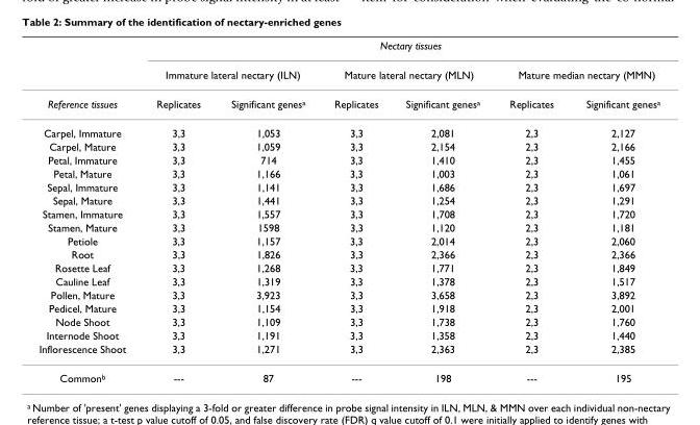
<table><thead><tr><td rowspan="3">Reference tissues</td><td colspan="6">Nectary tissues</td></tr><tr><td colspan="2">Immature lateral nectary (ILN)</td><td colspan="2">Mature lateral nectary (MLN)</td><td colspan="2">Mature median nectary (MMN)</td></tr><tr><td>Replicates</td><td>Significant genes<sup>a</sup></td><td>Replicates</td><td>Significant genes<sup>a</sup></td><td>Replicates</td><td>Significant genes<sup>a</sup></td></tr></thead><tbody><tr><td>Carpel, Immature</td><td>3,3</td><td>1,053</td><td>3,3</td><td>2,081</td><td>2,3</td><td>2,127</td></tr><tr><td>Carpel, Mature</td><td>3,3</td><td>1,059</td><td>3,3</td><td>2,154</td><td>2,3</td><td>2,166</td></tr><tr><td>Petal, Immature</td><td>3,3</td><td>714</td><td>3,3</td><td>1,410</td><td>2,3</td><td>1,455</td></tr><tr><td>Petal, Mature</td><td>3,3</td><td>1,166</td><td>3,3</td><td>1,003</td><td>2,3</td><td>1,061</td></tr><tr><td>Sepal, Immature</td><td>3,3</td><td>1,141</td><td>3,3</td><td>1,686</td><td>2,3</td><td>1,697</td></tr><tr><td>Sepal, Mature</td><td>3,3</td><td>1,441</td><td>3,3</td><td>1,254</td><td>2,3</td><td>1,291</td></tr><tr><td>Stamen, Immature</td><td>3,3</td><td>1,557</td><td>3,3</td><td>1,708</td><td>2,3</td><td>1,720</td></tr><tr><td>Stamen, Mature</td><td>3,3</td><td>1598</td><td>3,3</td><td>1,120</td><td>2,3</td><td>1,181</td></tr><tr><td>Petiole</td><td>3,3</td><td>1,157</td><td>3,3</td><td>2,014</td><td>2,3</td><td>2,060</td></tr><tr><td>Root</td><td>3,3</td><td>1,826</td><td>3,3</td><td>2,366</td><td>2,3</td><td>2,366</td></tr><tr><td>Rosette Leaf</td><td>3,3</td><td>1,268</td><td>3,3</td><td>1,771</td><td>2,3</td><td>1,849</td></tr><tr><td>Cauline Leaf</td><td>3,3</td><td>1,319</td><td>3,3</td><td>1,378</td><td>2,3</td><td>1,517</td></tr><tr><td>Pollen, Mature</td><td>3,3</td><td>3,923</td><td>3,3</td><td>3,658</td><td>2,3</td><td>3,892</td></tr><tr><td>Pedicel, Mature</td><td>3,3</td><td>1,154</td><td>3,3</td><td>1,918</td><td>2,3</td><td>2,001</td></tr><tr><td>Node Shoot</td><td>3,3</td><td>1,109</td><td>3,3</td><td>1,738</td><td>2,3</td><td>1,760</td></tr><tr><td>Internode Shoot</td><td>3,3</td><td>1,191</td><td>3,3</td><td>1,358</td><td>2,3</td><td>1,440</td></tr><tr><td>Inflorescence Shoot</td><td>3,3</td><td>1,271</td><td>3,3</td><td>2,363</td><td>2,3</td><td>2,385</td></tr><tr><td>Common<sup>b</sup></td><td>---</td><td>87</td><td>---</td><td>198</td><td>---</td><td>195</td></tr></tbody></table>